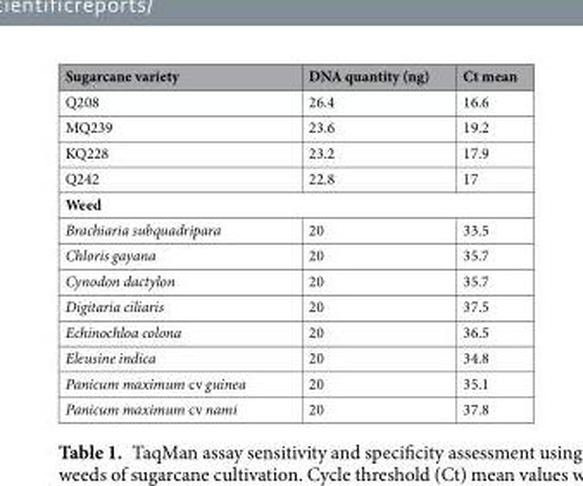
<table><thead><tr><td>Sugarcane variety</td><td>DNA quantity (ng)</td><td>Ct mean</td></tr></thead><tbody><tr><td>Q208</td><td>26.4</td><td>16.6</td></tr><tr><td>MQ239</td><td>23.6</td><td>19.2</td></tr><tr><td>KQ228</td><td>23.2</td><td>17.9</td></tr><tr><td>Q242</td><td>22.8</td><td>17</td></tr><tr><td colspan="3">Weed</td></tr><tr><td>Brachiaria subquadripara</td><td>20</td><td>33.5</td></tr><tr><td>Chloris gayana</td><td>20</td><td>35.7</td></tr><tr><td>Cynodon dactylon</td><td>20</td><td>35.7</td></tr><tr><td>Digitaria ciliaris</td><td>20</td><td>37.5</td></tr><tr><td>Echinochloa colona</td><td>20</td><td>36.5</td></tr><tr><td>Eleusine indica</td><td>20</td><td>34.8</td></tr><tr><td>Panicum maximum cv guinea</td><td>20</td><td>35.1</td></tr><tr><td>Panicum maximum cv nami</td><td>20</td><td>37.8</td></tr></tbody></table>